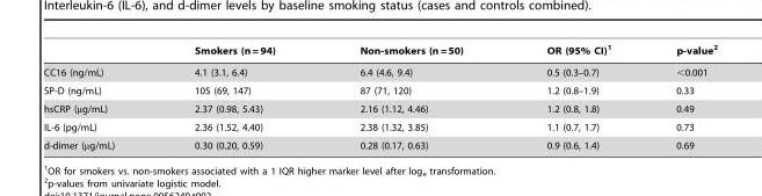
<table><thead><tr><td></td><td>Smokers (n = 94)</td><td>Non-smokers (n = 50)</td><td>OR (95% CI)<sup>1</sup></td><td>p-value<sup>2</sup></td></tr></thead><tbody><tr><td>CC16 (ng/mL)</td><td>4.1 (3.1, 6.4)</td><td>6.4 (4.6, 9.4)</td><td>0.5 (0.3–0.7)</td><td>&lt;0.001</td></tr><tr><td>SP-D (ng/mL)</td><td>105 (69, 147)</td><td>87 (71, 120)</td><td>1.2 (0.8–1.9)</td><td>0.33</td></tr><tr><td>hsCRP (µg/mL)</td><td>2.37 (0.98, 5.43)</td><td>2.16 (1.12, 4.46)</td><td>1.2 (0.8, 1.8)</td><td>0.49</td></tr><tr><td>IL-6 (pg/mL)</td><td>2.36 (1.52, 4.40)</td><td>2.38 (1.32, 3.85)</td><td>1.1 (0.7, 1.7)</td><td>0.73</td></tr><tr><td>d-dimer (µg/mL)</td><td>0.30 (0.20, 0.59)</td><td>0.28 (0.17, 0.63)</td><td>0.9 (0.6, 1.4)</td><td>0.69</td></tr></tbody></table>